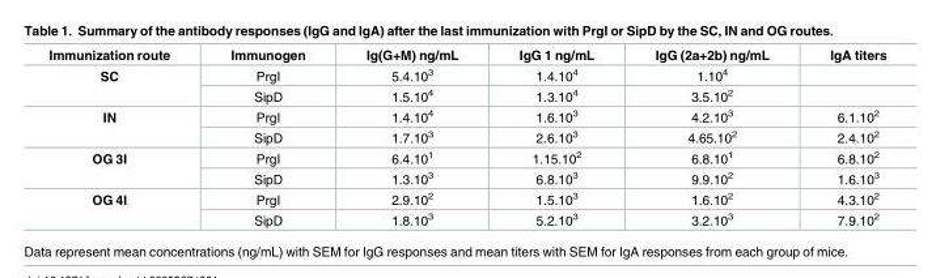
<table><thead><tr><td>Immunization route</td><td>Immunogen</td><td>Ig(G+M) ng/mL</td><td>IgG 1 ng/mL</td><td>IgG (2a+2b) ng/mL</td><td>IgA titers</td></tr></thead><tbody><tr><td rowspan="2">SC</td><td>PrgI</td><td>5.4.10<sup>3</sup></td><td>1.4.10<sup>4</sup></td><td>1.10<sup>4</sup></td><td></td></tr><tr><td>SipD</td><td>1.5.10<sup>4</sup></td><td>1.3.10<sup>4</sup></td><td>3.5.10<sup>2</sup></td><td></td></tr><tr><td rowspan="2">IN</td><td>PrgI</td><td>1.4.10<sup>4</sup></td><td>1.6.10<sup>3</sup></td><td>4.2.10<sup>3</sup></td><td>6.1.10<sup>2</sup></td></tr><tr><td>SipD</td><td>1.7.10<sup>3</sup></td><td>2.6.10<sup>3</sup></td><td>4.65.10<sup>2</sup></td><td>2.4.10<sup>2</sup></td></tr><tr><td rowspan="2">OG 3I</td><td>PrgI</td><td>6.4.10<sup>1</sup></td><td>1.15.10<sup>2</sup></td><td>6.8.10<sup>1</sup></td><td>6.8.10<sup>2</sup></td></tr><tr><td>SipD</td><td>1.3.10<sup>3</sup></td><td>6.8.10<sup>3</sup></td><td>9.9.10<sup>2</sup></td><td>1.6.10<sup>3</sup></td></tr><tr><td rowspan="2">OG 4I</td><td>PrgI</td><td>2.9.10<sup>2</sup></td><td>1.5.10<sup>3</sup></td><td>1.6.10<sup>2</sup></td><td>4.3.10<sup>2</sup></td></tr><tr><td>SipD</td><td>1.8.10<sup>3</sup></td><td>5.2.10<sup>3</sup></td><td>3.2.10<sup>3</sup></td><td>7.9.10<sup>2</sup></td></tr></tbody></table>